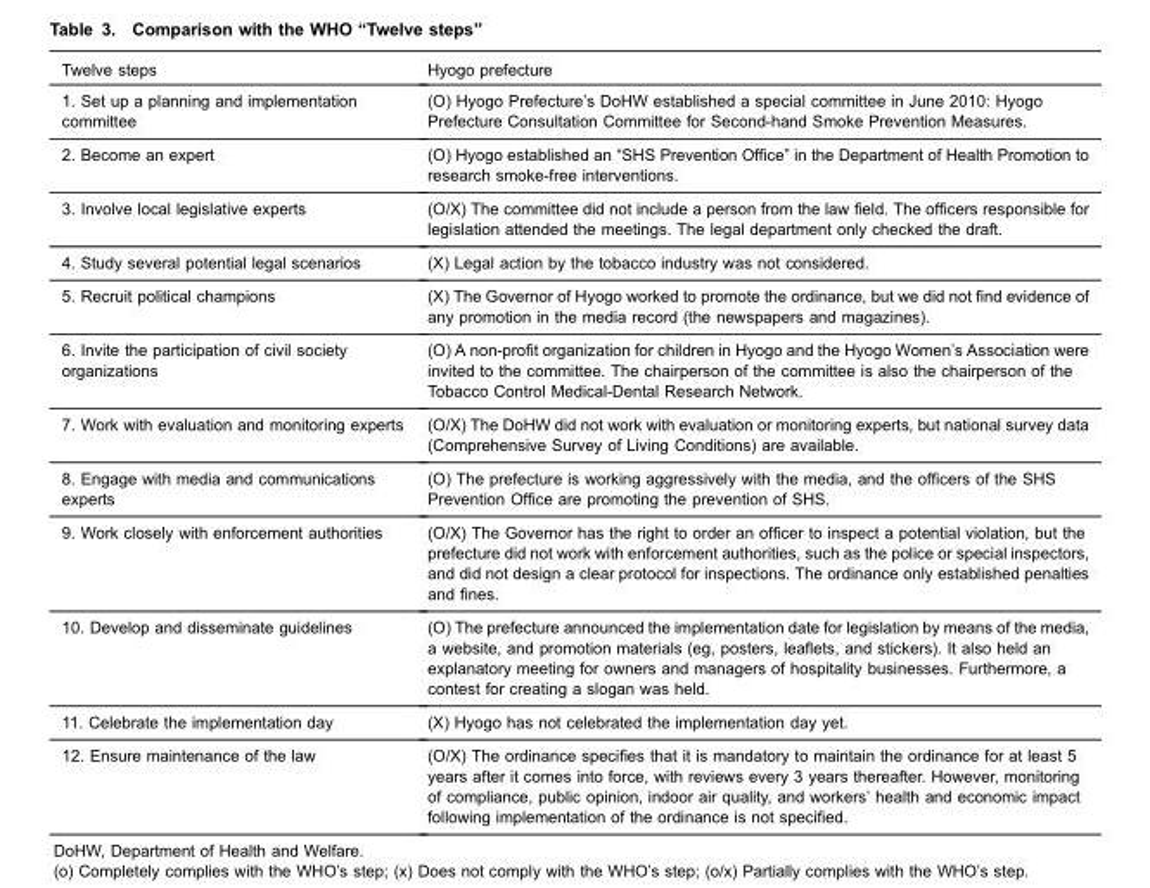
<table><thead><tr><td>Twelve steps</td><td>Hyogo prefecture</td></tr></thead><tbody><tr><td>1. Set up a planning and implementation committee</td><td>(O) Hyogo Prefecture’s DoHW established a special committee in June 2010: Hyogo Prefecture Consultation Committee for Second-hand Smoke Prevention Measures.</td></tr><tr><td>2. Become an expert</td><td>(O) Hyogo established an “SHS Prevention Office” in the Department of Health Promotion to research smoke-free interventions.</td></tr><tr><td>3. Involve local legislative experts</td><td>(O/X) The committee did not include a person from the law field. The officers responsible for legislation attended the meetings. The legal department only checked the draft.</td></tr><tr><td>4. Study several potential legal scenarios</td><td>(X) Legal action by the tobacco industry was not considered.</td></tr><tr><td>5. Recruit political champions</td><td>(X) The Governor of Hyogo worked to promote the ordinance, but we did not find evidence of any promotion in the media record (the newspapers and magazines).</td></tr><tr><td>6. Invite the participation of civil society organizations</td><td>(O) A non-profit organization for children in Hyogo and the Hyogo Women’s Association were invited to the committee. The chairperson of the committee is also the chairperson of the Tobacco Control Medical-Dental Research Network.</td></tr><tr><td>7. Work with evaluation and monitoring experts</td><td>(O/X) The DoHW did not work with evaluation or monitoring experts, but national survey data (Comprehensive Survey of Living Conditions) are available.</td></tr><tr><td>8. Engage with media and communications experts</td><td>(O) The prefecture is working aggressively with the media, and the officers of the SHS Prevention Office are promoting the prevention of SHS.</td></tr><tr><td>9. Work closely with enforcement authorities</td><td>(O/X) The Governor has the right to order an officer to inspect a potential violation, but the prefecture did not work with enforcement authorities, such as the police or special inspectors, and did not design a clear protocol for inspections. The ordinance only established penalties and fines.</td></tr><tr><td>10. Develop and disseminate guidelines</td><td>(O) The prefecture announced the implementation date for legislation by means of the media, a website, and promotion materials (eg, posters, leaflets, and stickers). It also held an explanatory meeting for owners and managers of hospitality businesses. Furthermore, a contest for creating a slogan was held.</td></tr><tr><td>11. Celebrate the implementation day</td><td>(X) Hyogo has not celebrated the implementation day yet.</td></tr><tr><td>12. Ensure maintenance of the law</td><td>(O/X) The ordinance specifies that it is mandatory to maintain the ordinance for at least 5 years after it comes into force, with reviews every 3 years thereafter. However, monitoring of compliance, public opinion, indoor air quality, and workers’ health and economic impact following implementation of the ordinance is not specified.</td></tr></tbody></table>